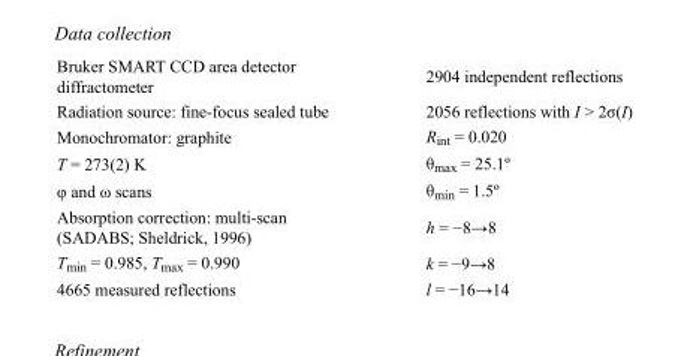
<table><tbody><tr><td>Bruker SMART CCD area detector diffractometer</td><td>2904 independent reflections</td></tr><tr><td>Radiation source: fine-focus sealed tube</td><td>2056 reflections with I &gt; 2σ(I)</td></tr><tr><td>Monochromator: graphite</td><td>R<sub>int</sub> = 0.020</td></tr><tr><td>T = 273(2) K</td><td>θ<sub>max</sub> = 25.1º</td></tr><tr><td>φ and ω scans</td><td>θ<sub>min</sub> = 1.5º</td></tr><tr><td>Absorption correction: multi-scan (SADABS; Sheldrick, 1996)</td><td>h = −8→8</td></tr><tr><td>T<sub>min</sub> = 0.985, T<sub>max</sub> = 0.990</td><td>k = −9→8</td></tr><tr><td>4665 measured reflections</td><td>l = −16→14</td></tr></tbody></table>